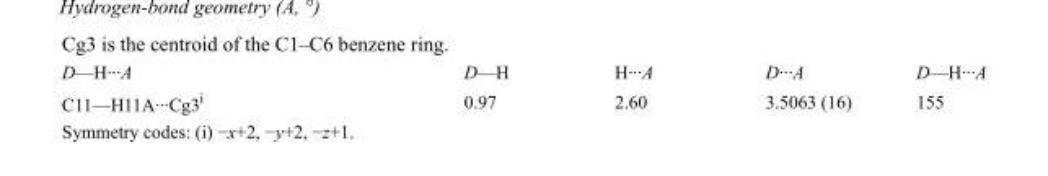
<table><tbody><tr><td>D—H···A</td><td>D—H</td><td>H···A</td><td>D···A</td><td>D—H···A</td></tr><tr><td>C11—H11A···Cg3<sup>i</sup></td><td>0.97</td><td>2.60</td><td>3.5063 (16)</td><td>155</td></tr></tbody></table>